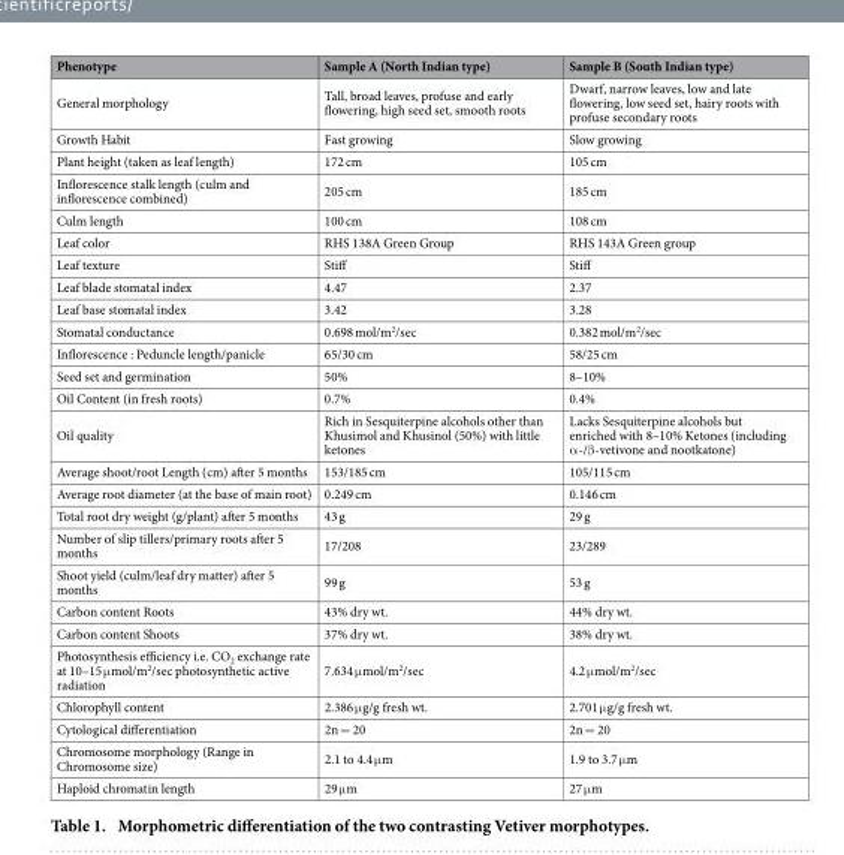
<table><thead><tr><td>Phenotype</td><td>Sample A (North Indian type)</td><td>Sample B (South Indian type)</td></tr></thead><tbody><tr><td>General morphology</td><td>Tall, broad leaves, profuse and early flowering, high seed set, smooth roots</td><td>Dwarf, narrow leaves, low and late flowering, low seed set, hairy roots with profuse secondary roots</td></tr><tr><td>Growth Habit</td><td>Fast growing</td><td>Slow growing</td></tr><tr><td>Plant height (taken as leaf length)</td><td>172 cm</td><td>105 cm</td></tr><tr><td>Inflorescence stalk length (culm and inflorescence combined)</td><td>205 cm</td><td>185 cm</td></tr><tr><td>Culm length</td><td>100 cm</td><td>108 cm</td></tr><tr><td>Leaf color</td><td>RHS 138A Green Group</td><td>RHS 143A Green group</td></tr><tr><td>Leaf texture</td><td>Stiff</td><td>Stiff</td></tr><tr><td>Leaf blade stomatal index</td><td>4.47</td><td>2.37</td></tr><tr><td>Leaf base stomatal index</td><td>3.42</td><td>3.28</td></tr><tr><td>Stomatal conductance</td><td>0.698 mol/m<sup>2</sup>/sec</td><td>0.382 mol/m<sup>2</sup>/sec</td></tr><tr><td>Inflorescence : Peduncle length/panicle</td><td>65/30 cm</td><td>58/25 cm</td></tr><tr><td>Seed set and germination</td><td>50%</td><td>8–10%</td></tr><tr><td>Oil Content (in fresh roots)</td><td>0.7%</td><td>0.4%</td></tr><tr><td>Oil quality</td><td>Rich in Sesquiterpine alcohols other than Khusimol and Khusinol (50%) with little ketones</td><td>Lacks Sesquiterpine alcohols but enriched with 8–10% Ketones (including α -/β -vetivone and nootkatone)</td></tr><tr><td>Average shoot/root Length (cm) after 5 months</td><td>153/185 cm</td><td>105/115 cm</td></tr><tr><td>Average root diameter (at the base of main root)</td><td>0.249 cm</td><td>0.146 cm</td></tr><tr><td>Total root dry weight (g/plant) after 5 months</td><td>43 g</td><td>29 g</td></tr><tr><td>Number of slip tillers/primary roots after 5 months</td><td>17/208</td><td>23/289</td></tr><tr><td>Shoot yield (culm/leaf dry matter) after 5 months</td><td>99 g</td><td>53 g</td></tr><tr><td>Carbon content Roots</td><td>43% dry wt.</td><td>44% dry wt.</td></tr><tr><td>Carbon content Shoots</td><td>37% dry wt.</td><td>38% dry wt.</td></tr><tr><td>Photosynthesis efficiency i.e. CO<sub>2</sub> exchange rate at 10–15 μ mol/m<sup>2</sup>/sec photosynthetic active radiation</td><td>7.634 μ mol/m<sup>2</sup>/sec</td><td>4.2 μ mol/m<sup>2</sup>/sec</td></tr><tr><td>Chlorophyll content</td><td>2.386 μ g/g fresh wt.</td><td>2.701 μ g/g fresh wt.</td></tr><tr><td>Cytological differentiation</td><td>2n = 20</td><td>2n = 20</td></tr><tr><td>Chromosome morphology (Range in Chromosome size)</td><td>2.1 to 4.4 μ m</td><td>1.9 to 3.7 μ m</td></tr><tr><td>Haploid chromatin length</td><td>29 μ m</td><td>27 μ m</td></tr></tbody></table>